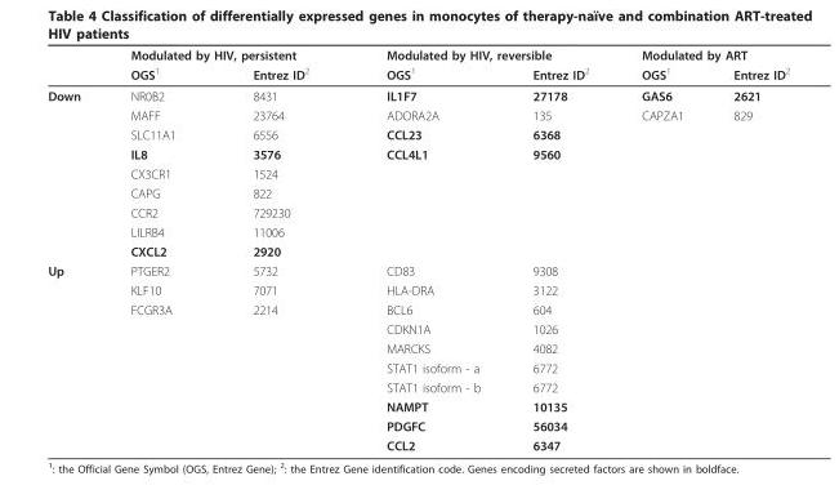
<table><thead><tr><td rowspan="2"></td><td colspan="2">Modulated by HIV, persistent</td><td colspan="2">Modulated by HIV, reversible</td><td colspan="2">Modulated by ART</td></tr><tr><td>OGS<sup>1</sup></td><td>Entrez ID<sup>2</sup></td><td>OGS<sup>1</sup></td><td>Entrez ID<sup>2</sup></td><td>OGS<sup>1</sup></td><td>Entrez ID<sup>2</sup></td></tr></thead><tbody><tr><td rowspan="9">Down</td><td>NR0B2</td><td>8431</td><td>IL1F7</td><td>27178</td><td>GAS6</td><td>2621</td></tr><tr><td>MAFF</td><td>23764</td><td>ADORA2A</td><td>135</td><td>CAPZA1</td><td>829</td></tr><tr><td>SLC11A1</td><td>6556</td><td>CCL23</td><td>6368</td><td></td><td></td></tr><tr><td>IL8</td><td>3576</td><td>CCL4L1</td><td>9560</td><td></td><td></td></tr><tr><td>CX3CR1</td><td>1524</td><td></td><td></td><td></td><td></td></tr><tr><td>CAPG</td><td>822</td><td></td><td></td><td></td><td></td></tr><tr><td>CCR2</td><td>729230</td><td></td><td></td><td></td><td></td></tr><tr><td>LILRB4</td><td>11006</td><td></td><td></td><td></td><td></td></tr><tr><td>CXCL2</td><td>2920</td><td></td><td></td><td></td><td></td></tr><tr><td rowspan="10">Up</td><td>PTGER2</td><td>5732</td><td>CD83</td><td>9308</td><td></td><td></td></tr><tr><td>KLF10</td><td>7071</td><td>HLA-DRA</td><td>3122</td><td></td><td></td></tr><tr><td>FCGR3A</td><td>2214</td><td>BCL6</td><td>604</td><td></td><td></td></tr><tr><td></td><td></td><td>CDKN1A</td><td>1026</td><td></td><td></td></tr><tr><td></td><td></td><td>MARCKS</td><td>4082</td><td></td><td></td></tr><tr><td></td><td></td><td>STAT1 isoform - a</td><td>6772</td><td></td><td></td></tr><tr><td></td><td></td><td>STAT1 isoform - b</td><td>6772</td><td></td><td></td></tr><tr><td></td><td></td><td>NAMPT</td><td>10135</td><td></td><td></td></tr><tr><td></td><td></td><td>PDGFC</td><td>56034</td><td></td><td></td></tr><tr><td></td><td></td><td>CCL2</td><td>6347</td><td></td><td></td></tr></tbody></table>